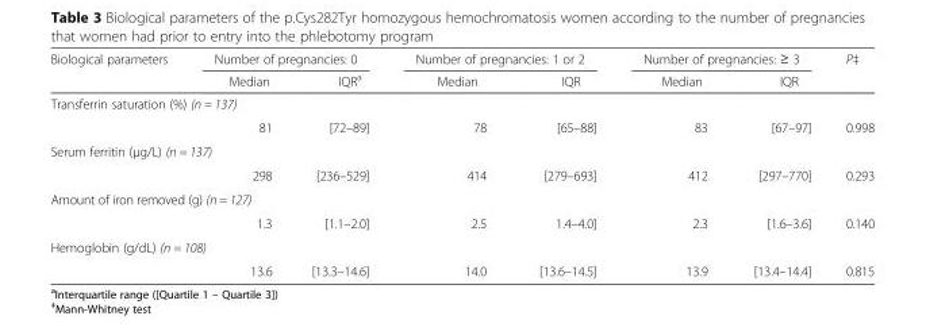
<table><thead><tr><td rowspan="2">Biological parameters</td><td colspan="2">Number of pregnancies: 0</td><td colspan="2">Number of pregnancies: 1 or 2</td><td colspan="2">Number of pregnancies: ≥ 3</td><td rowspan="2">P‡</td></tr><tr><td>Median</td><td>IQR<sup>a</sup></td><td>Median</td><td>IQR</td><td>Median</td><td>IQR</td></tr></thead><tbody><tr><td colspan="8">Transferrin saturation (%) (n = 137)</td></tr><tr><td></td><td>81</td><td>[72–89]</td><td>78</td><td>[65–88]</td><td>83</td><td>[67–97]</td><td>0.998</td></tr><tr><td colspan="8">Serum ferritin (μg/L) (n = 137)</td></tr><tr><td></td><td>298</td><td>[236–529]</td><td>414</td><td>[279–693]</td><td>412</td><td>[297–770]</td><td>0.293</td></tr><tr><td colspan="8">Amount of iron removed (g) (n = 127)</td></tr><tr><td></td><td>1.3</td><td>[1.1–2.0]</td><td>2.5</td><td>1.4–4.0]</td><td>2.3</td><td>[1.6–3.6]</td><td>0.140</td></tr><tr><td colspan="8">Hemoglobin (g/dL) (n = 108)</td></tr><tr><td></td><td>13.6</td><td>[13.3–14.6]</td><td>14.0</td><td>[13.6–14.5]</td><td>13.9</td><td>[13.4–14.4]</td><td>0.815</td></tr></tbody></table>